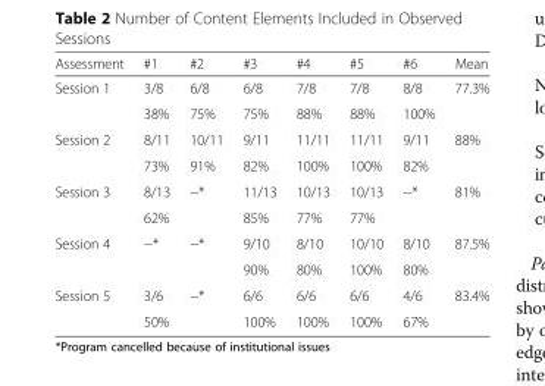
<table><thead><tr><td>Assessment</td><td>#1</td><td>#2</td><td>#3</td><td>#4</td><td>#5</td><td>#6</td><td>Mean</td></tr></thead><tbody><tr><td rowspan="2">Session 1</td><td>3/8</td><td>6/8</td><td>6/8</td><td>7/8</td><td>7/8</td><td>8/8</td><td rowspan="2">77.3%</td></tr><tr><td>38%</td><td>75%</td><td>75%</td><td>88%</td><td>88%</td><td>100%</td></tr><tr><td rowspan="2">Session 2</td><td>8/11</td><td>10/11</td><td>9/11</td><td>11/11</td><td>11/11</td><td>9/11</td><td rowspan="2">88%</td></tr><tr><td>73%</td><td>91%</td><td>82%</td><td>100%</td><td>100%</td><td>82%</td></tr><tr><td rowspan="2">Session 3</td><td>8/13</td><td>--*</td><td>11/13</td><td>10/13</td><td>10/13</td><td>--*</td><td rowspan="2">81%</td></tr><tr><td>62%</td><td></td><td>85%</td><td>77%</td><td>77%</td><td></td></tr><tr><td rowspan="2">Session 4</td><td>--*</td><td>--*</td><td>9/10</td><td>8/10</td><td>10/10</td><td>8/10</td><td rowspan="2">87.5%</td></tr><tr><td></td><td></td><td>90%</td><td>80%</td><td>100%</td><td>80%</td></tr><tr><td rowspan="2">Session 5</td><td>3/6</td><td>--*</td><td>6/6</td><td>6/6</td><td>6/6</td><td>4/6</td><td rowspan="2">83.4%</td></tr><tr><td>50%</td><td></td><td>100%</td><td>100%</td><td>100%</td><td>67%</td></tr></tbody></table>